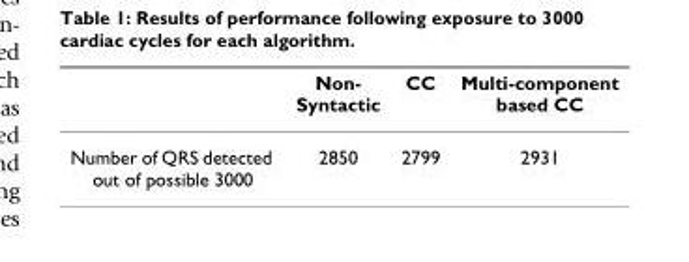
<table><thead><tr><td></td><td>Non- Syntactic</td><td>CC</td><td>Multi-component based CC</td></tr></thead><tbody><tr><td>Number of QRS detected out of possible 3000</td><td>2850</td><td>2799</td><td>2931</td></tr></tbody></table>